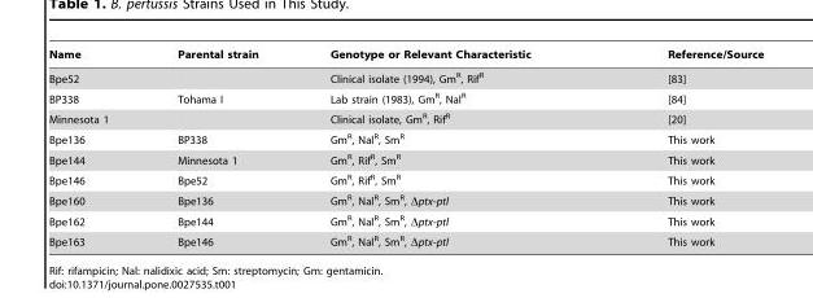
<table><thead><tr><td>Name</td><td>Parental strain</td><td>Genotype or Relevant Characteristic</td><td>Reference/Source</td></tr></thead><tbody><tr><td>Bpe52</td><td></td><td>Clinical isolate (1994), Gm<sup>R</sup>, Rif<sup>R</sup></td><td>[83]</td></tr><tr><td>BP338</td><td>Tohama I</td><td>Lab strain (1983), Gm<sup>R</sup>, Nal<sup>R</sup></td><td>[84]</td></tr><tr><td>Minnesota 1</td><td></td><td>Clinical isolate, Gm<sup>R</sup>, Rif<sup>R</sup></td><td>[20]</td></tr><tr><td>Bpe136</td><td>BP338</td><td>Gm<sup>R</sup>, Nal<sup>R</sup>, Sm<sup>R</sup></td><td>This work</td></tr><tr><td>Bpe144</td><td>Minnesota 1</td><td>Gm<sup>R</sup>, Rif<sup>R</sup>, Sm<sup>R</sup></td><td>This work</td></tr><tr><td>Bpe146</td><td>Bpe52</td><td>Gm<sup>R</sup>, Rif<sup>R</sup>, Sm<sup>R</sup></td><td>This work</td></tr><tr><td>Bpe160</td><td>Bpe136</td><td>Gm<sup>R</sup>, Nal<sup>R</sup>, Sm<sup>R</sup>, Δptx-ptl</td><td>This work</td></tr><tr><td>Bpe162</td><td>Bpe144</td><td>Gm<sup>R</sup>, Nal<sup>R</sup>, Sm<sup>R</sup>, Δptx-ptl</td><td>This work</td></tr><tr><td>Bpe163</td><td>Bpe146</td><td>Gm<sup>R</sup>, Nal<sup>R</sup>, Sm<sup>R</sup>, Δptx-ptl</td><td>This work</td></tr></tbody></table>